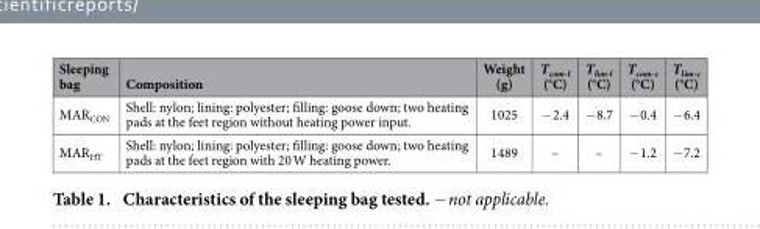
<table><thead><tr><td>Sleeping bag</td><td>Composition</td><td>Weight (g)</td><td>T<sub>com-l</sub> (°C)</td><td>T<sub>lim-l</sub> (°C)</td><td>T<sub>com-c</sub> (°C)</td><td>T<sub>lim-c</sub> (°C)</td></tr></thead><tbody><tr><td>MAR<sub>CON</sub></td><td>Shell: nylon; lining: polyester; filling: goose down; two heating pads at the feet region without heating power input.</td><td>1025</td><td>− 2.4</td><td>− 8.7</td><td>− 0.4</td><td>− 6.4</td></tr><tr><td>MAR<sub>HT</sub></td><td>Shell: nylon; lining: polyester; filling: goose down; two heating pads at the feet region with 20 W heating power.</td><td>1489</td><td>–</td><td>–</td><td>− 1.2</td><td>− 7.2</td></tr></tbody></table>